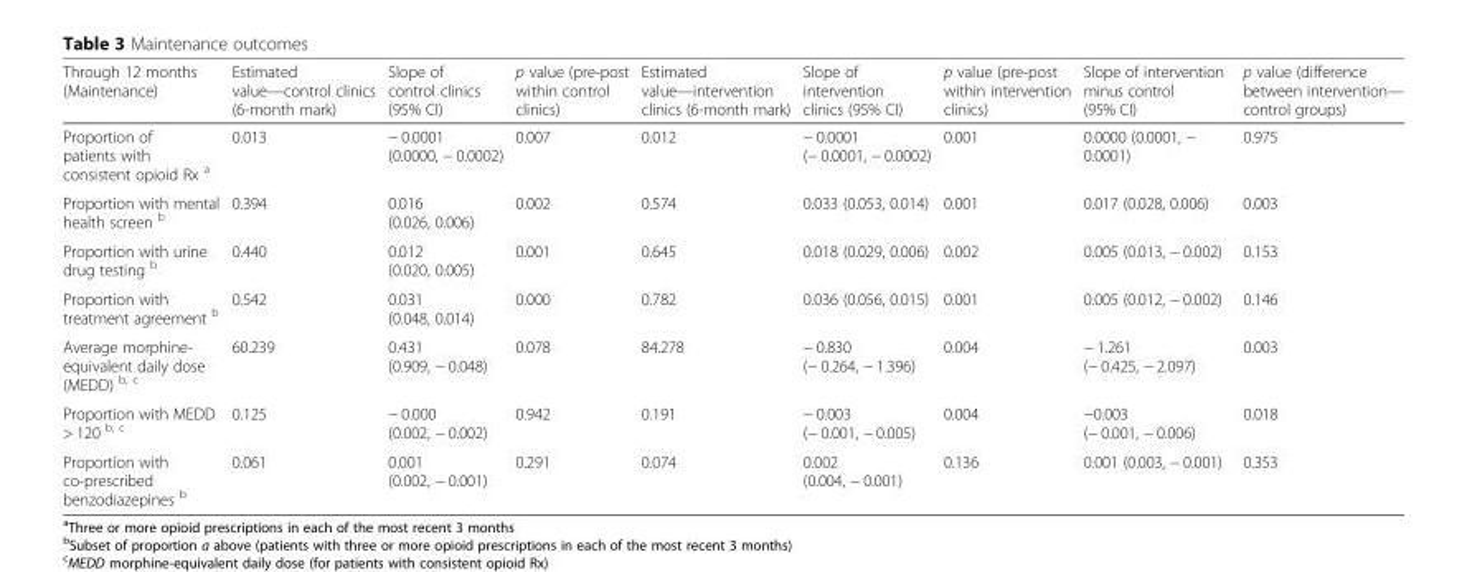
<table><thead><tr><td>Through 12 months (Maintenance)</td><td>Estimated value—control clinics (6-month mark)</td><td>Slope of control clinics (95% CI)</td><td>p value (pre-post within control clinics)</td><td>Estimated value—intervention clinics (6-month mark)</td><td>Slope of intervention clinics (95% CI)</td><td>p value (pre-post within intervention clinics)</td><td>Slope of intervention minus control (95% CI)</td><td>p value (difference between intervention— control groups)</td></tr></thead><tbody><tr><td>Proportion of patients with consistent opioid Rx <sup>a</sup></td><td>0.013</td><td>− 0.0001 (0.0000, − 0.0002)</td><td>0.007</td><td>0.012</td><td>− 0.0001 (− 0.0001, − 0.0002)</td><td>0.001</td><td>0.0000 (0.0001, − 0.0001)</td><td>0.975</td></tr><tr><td>Proportion with mental health screen <sup>b</sup></td><td>0.394</td><td>0.016 (0.026, 0.006)</td><td>0.002</td><td>0.574</td><td>0.033 (0.053, 0.014)</td><td>0.001</td><td>0.017 (0.028, 0.006)</td><td>0.003</td></tr><tr><td>Proportion with urine drug testing <sup>b</sup></td><td>0.440</td><td>0.012 (0.020, 0.005)</td><td>0.001</td><td>0.645</td><td>0.018 (0.029, 0.006)</td><td>0.002</td><td>0.005 (0.013, − 0.002)</td><td>0.153</td></tr><tr><td>Proportion with treatment agreement <sup>b</sup></td><td>0.542</td><td>0.031 (0.048, 0.014)</td><td>0.000</td><td>0.782</td><td>0.036 (0.056, 0.015)</td><td>0.001</td><td>0.005 (0.012, − 0.002)</td><td>0.146</td></tr><tr><td>Average morphine- equivalent daily dose (MEDD) <sup>b, c</sup></td><td>60.239</td><td>0.431 (0.909, − 0.048)</td><td>0.078</td><td>84.278</td><td>− 0.830 (− 0.264, − 1.396)</td><td>0.004</td><td>− 1.261 (− 0.425, − 2.097)</td><td>0.003</td></tr><tr><td>Proportion with MEDD &gt; 120 <sup>b, c</sup></td><td>0.125</td><td>− 0.000 (0.002, − 0.002)</td><td>0.942</td><td>0.191</td><td>− 0.003 (− 0.001, − 0.005)</td><td>0.004</td><td>−0.003 (− 0.001, − 0.006)</td><td>0.018</td></tr><tr><td>Proportion with co-prescribed benzodiazepines <sup>b</sup></td><td>0.061</td><td>0.001 (0.002, − 0.001)</td><td>0.291</td><td>0.074</td><td>0.002 (0.004, − 0.001)</td><td>0.136</td><td>0.001 (0.003, − 0.001)</td><td>0.353</td></tr></tbody></table>